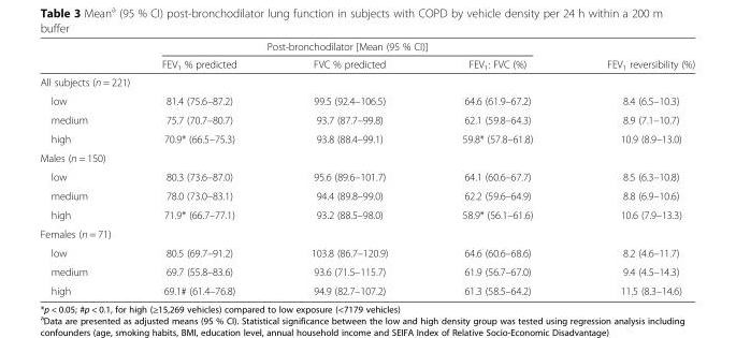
<table><thead><tr><td rowspan="2"></td><td colspan="3">Post-bronchodilator [Mean (95 % CI)]</td><td rowspan="2">FEV<sub>1</sub> reversibility (%)</td></tr><tr><td>FEV<sub>1</sub> % predicted</td><td>FVC % predicted</td><td>FEV<sub>1</sub>: FVC (%)</td></tr></thead><tbody><tr><td colspan="5">All subjects (n = 221)</td></tr><tr><td>low</td><td>81.4 (75.6–87.2)</td><td>99.5 (92.4–106.5)</td><td>64.6 (61.9–67.2)</td><td>8.4 (6.5–10.3)</td></tr><tr><td>medium</td><td>75.7 (70.7–80.7)</td><td>93.7 (87.7–99.8)</td><td>62.1 (59.8–64.3)</td><td>8.9 (7.1–10.7)</td></tr><tr><td>high</td><td>70.9* (66.5–75.3)</td><td>93.8 (88.4–99.1)</td><td>59.8* (57.8–61.8)</td><td>10.9 (8.9–13.0)</td></tr><tr><td colspan="5">Males (n = 150)</td></tr><tr><td>low</td><td>80.3 (73.6–87.0)</td><td>95.6 (89.6–101.7)</td><td>64.1 (60.6–67.7)</td><td>8.5 (6.3–10.8)</td></tr><tr><td>medium</td><td>78.0 (73.0–83.1)</td><td>94.4 (89.8–99.0)</td><td>62.2 (59.6–64.9)</td><td>8.8 (6.9–10.6)</td></tr><tr><td>high</td><td>71.9* (66.7–77.1)</td><td>93.2 (88.5–98.0)</td><td>58.9* (56.1–61.6)</td><td>10.6 (7.9–13.3)</td></tr><tr><td colspan="5">Females (n = 71)</td></tr><tr><td>low</td><td>80.5 (69.7–91.2)</td><td>103.8 (86.7–120.9)</td><td>64.6 (60.6–68.6)</td><td>8.2 (4.6–11.7)</td></tr><tr><td>medium</td><td>69.7 (55.8–83.6)</td><td>93.6 (71.5–115.7)</td><td>61.9 (56.7–67.0)</td><td>9.4 (4.5–14.3)</td></tr><tr><td>high</td><td>69.1# (61.4–76.8)</td><td>94.9 (82.7–107.2)</td><td>61.3 (58.5–64.2)</td><td>11.5 (8.3–14.6)</td></tr></tbody></table>